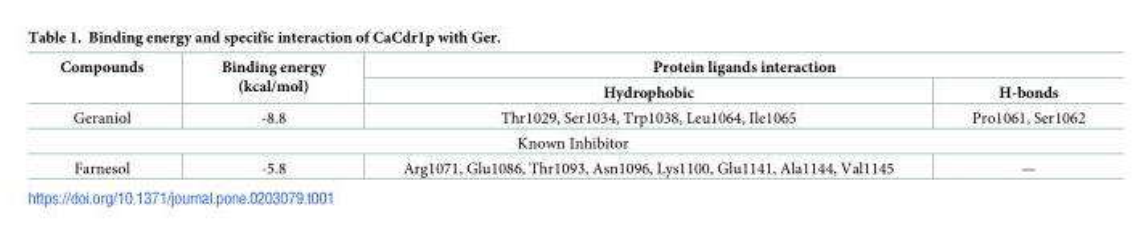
<table><thead><tr><td rowspan="2">Compounds</td><td rowspan="2">Binding energy (kcal/mol)</td><td colspan="2">Protein ligands interaction</td></tr><tr><td>Hydrophobic</td><td>H-bonds</td></tr></thead><tbody><tr><td>Geraniol</td><td>-8.8</td><td>Thr1029, Ser1034, Trp1038, Leu1064, Ile1065</td><td>Pro1061, Ser1062</td></tr><tr><td colspan="4">Known Inhibitor</td></tr><tr><td>Farnesol</td><td>-5.8</td><td>Arg1071, Glu1086, Thr1093, Asn1096, Lys1100, Glu1141, Ala1144, Val1145</td><td>—</td></tr></tbody></table>